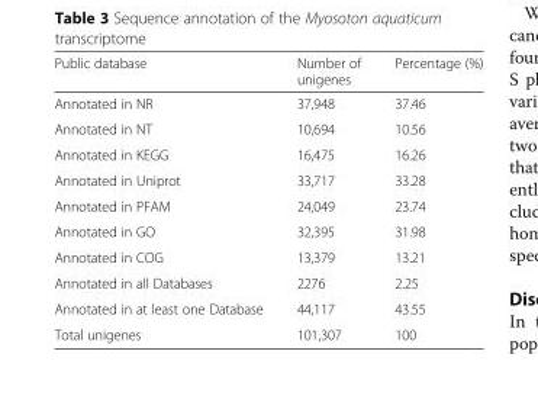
<table><thead><tr><td>Public database</td><td>Number of unigenes</td><td>Percentage (%)</td></tr></thead><tbody><tr><td>Annotated in NR</td><td>37,948</td><td>37.46</td></tr><tr><td>Annotated in NT</td><td>10,694</td><td>10.56</td></tr><tr><td>Annotated in KEGG</td><td>16,475</td><td>16.26</td></tr><tr><td>Annotated in Uniprot</td><td>33,717</td><td>33.28</td></tr><tr><td>Annotated in PFAM</td><td>24,049</td><td>23.74</td></tr><tr><td>Annotated in GO</td><td>32,395</td><td>31.98</td></tr><tr><td>Annotated in COG</td><td>13,379</td><td>13.21</td></tr><tr><td>Annotated in all Databases</td><td>2276</td><td>2.25</td></tr><tr><td>Annotated in at least one Database</td><td>44,117</td><td>43.55</td></tr><tr><td>Total unigenes</td><td>101,307</td><td>100</td></tr></tbody></table>